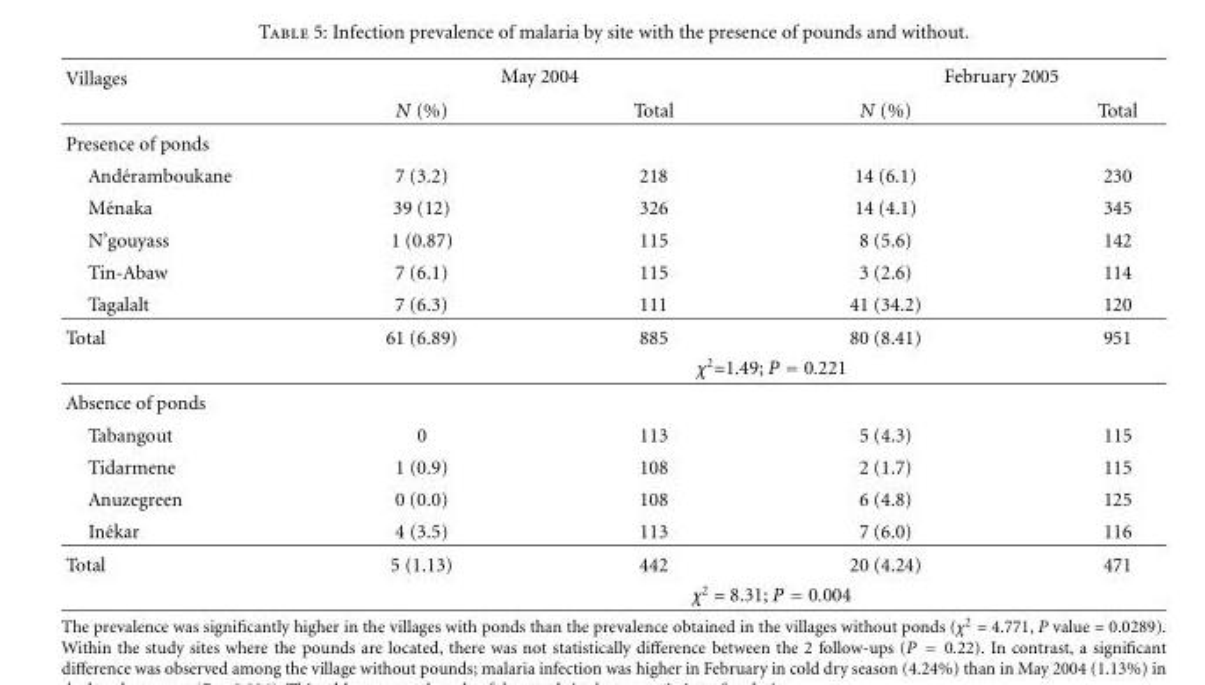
<table><thead><tr><td rowspan="2">Villages</td><td colspan="2">May 2004</td><td colspan="2">February 2005</td></tr><tr><td>N (%)</td><td>Total</td><td>N (%)</td><td>Total</td></tr></thead><tbody><tr><td colspan="5">Presence of ponds</td></tr><tr><td>And´eramboukane</td><td>7 (3.2)</td><td>218</td><td>14 (6.1)</td><td>230</td></tr><tr><td>M´enaka</td><td>39 (12)</td><td>326</td><td>14 (4.1)</td><td>345</td></tr><tr><td>N’gouyass</td><td>1 (0.87)</td><td>115</td><td>8 (5.6)</td><td>142</td></tr><tr><td>Tin-Abaw</td><td>7 (6.1)</td><td>115</td><td>3 (2.6)</td><td>114</td></tr><tr><td>Tagalalt</td><td>7 (6.3)</td><td>111</td><td>41 (34.2)</td><td>120</td></tr><tr><td rowspan="2">Total</td><td>61 (6.89)</td><td>885</td><td>80 (8.41)</td><td>951</td></tr><tr><td colspan="4">χ<sup>2</sup>=1.49; P = 0.221</td></tr><tr><td colspan="5">Absence of ponds</td></tr><tr><td>Tabangout</td><td>0</td><td>113</td><td>5 (4.3)</td><td>115</td></tr><tr><td>Tidarmene</td><td>1 (0.9)</td><td>108</td><td>2 (1.7)</td><td>115</td></tr><tr><td>Anuzegreen</td><td>0 (0.0)</td><td>108</td><td>6 (4.8)</td><td>125</td></tr><tr><td>In´ekar</td><td>4 (3.5)</td><td>113</td><td>7 (6.0)</td><td>116</td></tr><tr><td rowspan="2">Total</td><td>5 (1.13)</td><td>442</td><td>20 (4.24)</td><td>471</td></tr><tr><td colspan="4">χ<sup>2</sup> = 8.31; P = 0.004</td></tr></tbody></table>